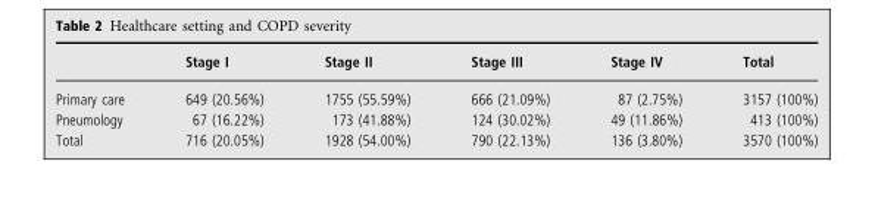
<table><thead><tr><td></td><td>Stage I</td><td>Stage II</td><td>Stage III</td><td>Stage IV</td><td>Total</td></tr></thead><tbody><tr><td>Primary care</td><td>649 (20.56%)</td><td>1755 (55.59%)</td><td>666 (21.09%)</td><td>87 (2.75%)</td><td>3157 (100%)</td></tr><tr><td>Pneumology</td><td>67 (16.22%)</td><td>173 (41.88%)</td><td>124 (30.02%)</td><td>49 (11.86%)</td><td>413 (100%)</td></tr><tr><td>Total</td><td>716 (20.05%)</td><td>1928 (54.00%)</td><td>790 (22.13%)</td><td>136 (3.80%)</td><td>3570 (100%)</td></tr></tbody></table>